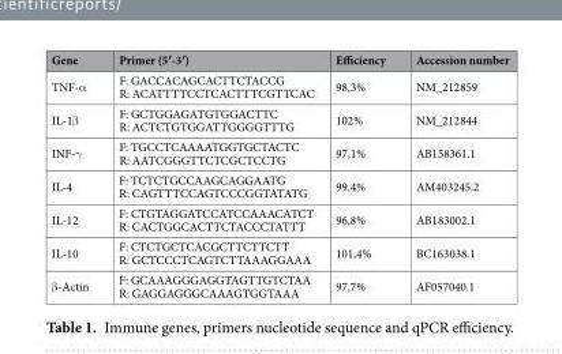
<table><thead><tr><td>Gene</td><td>Primer (5′-3′)</td><td>Efficiency</td><td>Accession number</td></tr></thead><tbody><tr><td>TNF-α</td><td>F: GACCACAGCACTTCTACCG R: ACATTTTCCTCACTTTCGTTCAC</td><td>98,3%</td><td>NM_212859</td></tr><tr><td>IL-1β</td><td>F: GCTGGAGATGTGGACTTC R: ACTCTGTGGATTGGGGTTTG</td><td>102%</td><td>NM_212844</td></tr><tr><td>INF-γ</td><td>F: TGCCTCAAAATGGTGCTACTC R: AATCGGGTTCTCGCTCCTG</td><td>97,1%</td><td>AB158361.1</td></tr><tr><td>IL-4</td><td>F: TCTCTGCCAAGCAGGAATG R: CAGTTTCCAGTCCCGGTATATG</td><td>99,4%</td><td>AM403245.2</td></tr><tr><td>IL-12</td><td>F: CTGTAGGATCCATCCAAACATCT R: CACTGGCACTTCTACCCTATTT</td><td>96,8%</td><td>AB183002.1</td></tr><tr><td>IL-10</td><td>F: CTCTGCTCACGCTTCTTCTT R: GCTCCCTCAGTCTTAAAGGAAA</td><td>101,4%</td><td>BC163038.1</td></tr><tr><td>β-Actin</td><td>F: GCAAAGGGAGGTAGTTGTCTAA R: GAGGAGGGCAAAGTGGTAAA</td><td>97,7%</td><td>AF057040.1</td></tr></tbody></table>